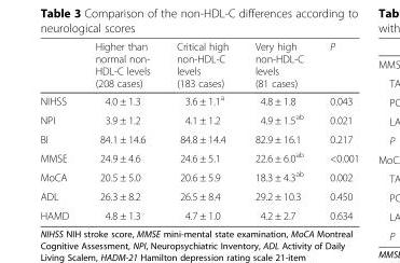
<table><thead><tr><td></td><td>Higher than normal non- HDL-C levels (208 cases)</td><td>Critical high non-HDL-C levels (183 cases)</td><td>Very high non-HDL-C levels (81 cases)</td><td>P</td></tr></thead><tbody><tr><td>NIHSS</td><td>4.0 ± 1.3</td><td>3.6 ± 1.1<sup>a</sup></td><td>4.8 ± 1.8</td><td>0.043</td></tr><tr><td>NPI</td><td>3.9 ± 1.2</td><td>4.1 ± 1.2</td><td>4.9 ± 1.5<sup>ab</sup></td><td>0.021</td></tr><tr><td>BI</td><td>84.1 ± 14.6</td><td>84.8 ± 14.4</td><td>82.9 ± 16.1</td><td>0.217</td></tr><tr><td>MMSE</td><td>24.9 ± 4.6</td><td>24.6 ± 5.1</td><td>22.6 ± 6.0<sup>ab</sup></td><td>&lt;0.001</td></tr><tr><td>MoCA</td><td>20.5 ± 5.0</td><td>20.6 ± 5.9</td><td>18.3 ± 4.3<sup>ab</sup></td><td>0.002</td></tr><tr><td>ADL</td><td>26.3 ± 8.2</td><td>26.5 ± 8.4</td><td>29.2 ± 10.3</td><td>0.450</td></tr><tr><td>HAMD</td><td>4.8 ± 1.3</td><td>4.7 ± 1.0</td><td>4.2 ± 2.7</td><td>0.634</td></tr></tbody></table>